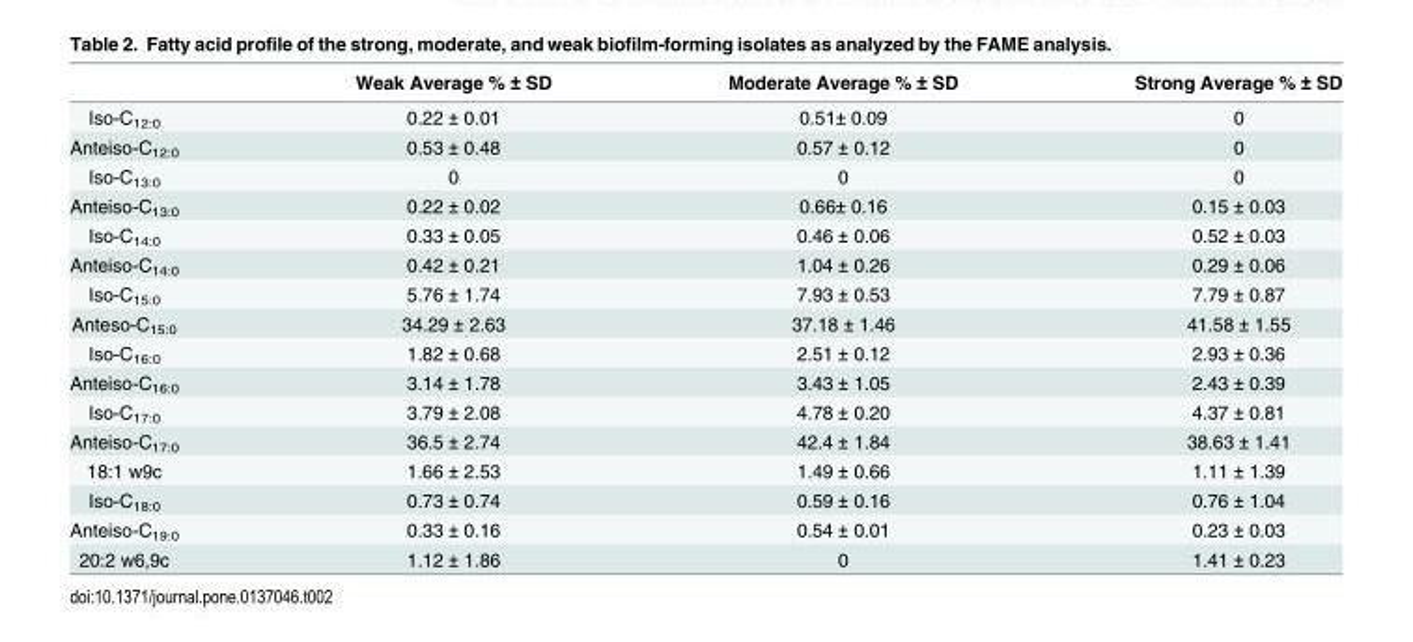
<table><thead><tr><td></td><td>Weak Average % ± SD</td><td>Moderate Average % ± SD</td><td>Strong Average % ± SD</td></tr></thead><tbody><tr><td>Iso-C<sub>12:0</sub></td><td>0.22 ± 0.01</td><td>0.51± 0.09</td><td>0</td></tr><tr><td>Anteiso-C<sub>12:0</sub></td><td>0.53 ± 0.48</td><td>0.57 ± 0.12</td><td>0</td></tr><tr><td>Iso-C<sub>13:0</sub></td><td>0</td><td>0</td><td>0</td></tr><tr><td>Anteiso-C<sub>13:0</sub></td><td>0.22 ± 0.02</td><td>0.66± 0.16</td><td>0.15 ± 0.03</td></tr><tr><td>Iso-C<sub>14:0</sub></td><td>0.33 ± 0.05</td><td>0.46 ± 0.06</td><td>0.52 ± 0.03</td></tr><tr><td>Anteiso-C<sub>14:0</sub></td><td>0.42 ± 0.21</td><td>1.04 ± 0.26</td><td>0.29 ± 0.06</td></tr><tr><td>Iso-C<sub>15:0</sub></td><td>5.76 ± 1.74</td><td>7.93 ± 0.53</td><td>7.79 ± 0.87</td></tr><tr><td>Anteso-C<sub>15:0</sub></td><td>34.29 ± 2.63</td><td>37.18 ± 1.46</td><td>41.58 ± 1.55</td></tr><tr><td>Iso-C<sub>16:0</sub></td><td>1.82 ± 0.68</td><td>2.51 ± 0.12</td><td>2.93 ± 0.36</td></tr><tr><td>Anteiso-C<sub>16:0</sub></td><td>3.14 ± 1.78</td><td>3.43 ± 1.05</td><td>2.43 ± 0.39</td></tr><tr><td>Iso-C<sub>17:0</sub></td><td>3.79 ± 2.08</td><td>4.78 ± 0.20</td><td>4.37 ± 0.81</td></tr><tr><td>Anteiso-C<sub>17:0</sub></td><td>36.5 ± 2.74</td><td>42.4 ± 1.84</td><td>38.63 ± 1.41</td></tr><tr><td>18:1 w9c</td><td>1.66 ± 2.53</td><td>1.49 ± 0.66</td><td>1.11 ± 1.39</td></tr><tr><td>Iso-C<sub>18:0</sub></td><td>0.73 ± 0.74</td><td>0.59 ± 0.16</td><td>0.76 ± 1.04</td></tr><tr><td>Anteiso-C<sub>19:0</sub></td><td>0.33 ± 0.16</td><td>0.54 ± 0.01</td><td>0.23 ± 0.03</td></tr><tr><td>20:2 w6,9c</td><td>1.12 ± 1.86</td><td>0</td><td>1.41 ± 0.23</td></tr></tbody></table>